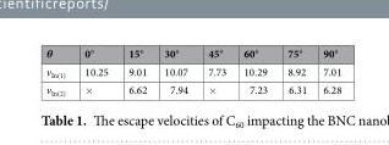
<table><thead><tr><td>θ</td><td>0°</td><td>15°</td><td>30°</td><td>45°</td><td>60°</td><td>75°</td><td>90°</td></tr></thead><tbody><tr><td>v<sub>In(1)</sub></td><td>10.25</td><td>9.01</td><td>10.07</td><td>7.73</td><td>10.29</td><td>8.92</td><td>7.01</td></tr><tr><td>v<sub>In(2)</sub></td><td>×</td><td>6.62</td><td>7.94</td><td>×</td><td>7.23</td><td>6.31</td><td>6.28</td></tr></tbody></table>